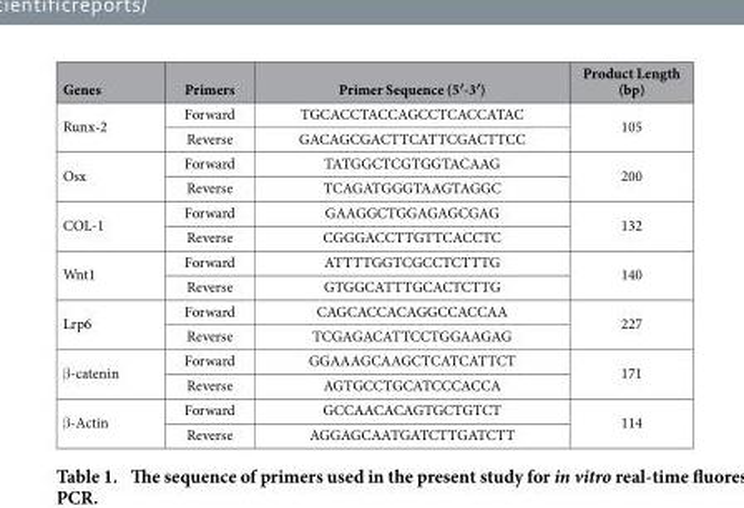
<table><thead><tr><td>Genes</td><td>Primers</td><td>Primer Sequence (5′-3′)</td><td>Product Length (bp)</td></tr></thead><tbody><tr><td rowspan="2">Runx-2</td><td>Forward</td><td>TGCACCTACCAGCCTCACCATAC</td><td rowspan="2">105</td></tr><tr><td>Reverse</td><td>GACAGCGACTTCATTCGACTTCC</td></tr><tr><td rowspan="2">Osx</td><td>Forward</td><td>TATGGCTCGTGGTACAAG</td><td rowspan="2">200</td></tr><tr><td>Reverse</td><td>TCAGATGGGTAAGTAGGC</td></tr><tr><td rowspan="2">COL-1</td><td>Forward</td><td>GAAGGCTGGAGAGCGAG</td><td rowspan="2">132</td></tr><tr><td>Reverse</td><td>CGGGACCTTGTTCACCTC</td></tr><tr><td rowspan="2">Wnt1</td><td>Forward</td><td>ATTTTGGTCGCCTCTTTG</td><td rowspan="2">140</td></tr><tr><td>Reverse</td><td>GTGGCATTTGCACTCTTG</td></tr><tr><td rowspan="2">Lrp6</td><td>Forward</td><td>CAGCACCACAGGCCACCAA</td><td rowspan="2">227</td></tr><tr><td>Reverse</td><td>TCGAGACATTCCTGGAAGAG</td></tr><tr><td rowspan="2">β -catenin</td><td>Forward</td><td>GGAAAGCAAGCTCATCATTCT</td><td rowspan="2">171</td></tr><tr><td>Reverse</td><td>AGTGCCTGCATCCCACCA</td></tr><tr><td rowspan="2">β -Actin</td><td>Forward</td><td>GCCAACACAGTGCTGTCT</td><td rowspan="2">114</td></tr><tr><td>Reverse</td><td>AGGAGCAATGATCTTGATCTT</td></tr></tbody></table>